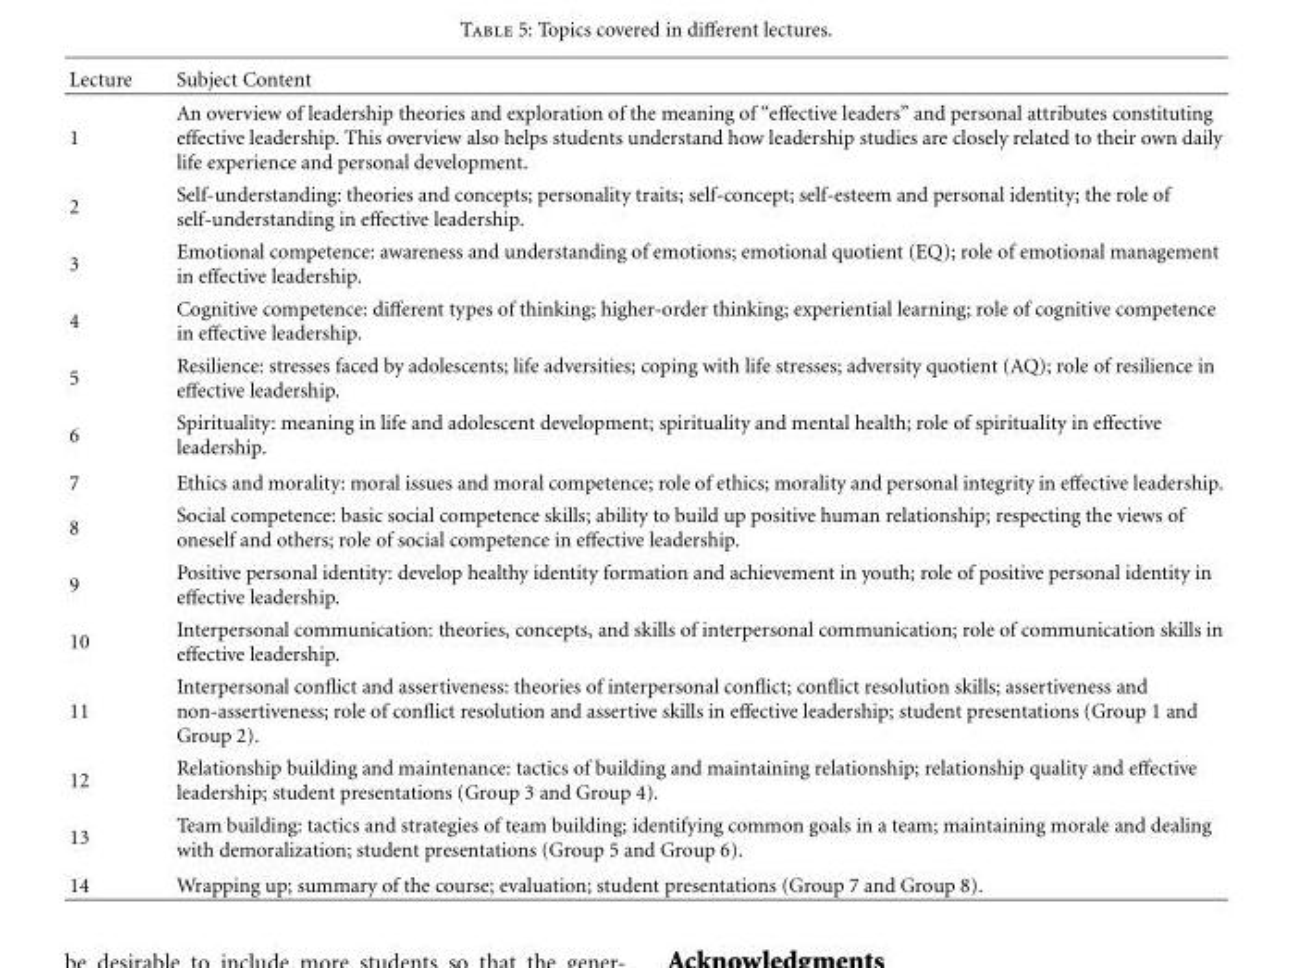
<table><thead><tr><td>Lecture</td><td>Subject Content</td></tr></thead><tbody><tr><td>1</td><td>An overview of leadership theories and exploration of the meaning of “effective leaders” and personal attributes constituting effective leadership. This overview also helps students understand how leadership studies are closely related to their own daily life experience and personal development.</td></tr><tr><td>2</td><td>Self-understanding: theories and concepts; personality traits; self-concept; self-esteem and personal identity; the role of self-understanding in effective leadership.</td></tr><tr><td>3</td><td>Emotional competence: awareness and understanding of emotions; emotional quotient (EQ); role of emotional management in effective leadership.</td></tr><tr><td>4</td><td>Cognitive competence: different types of thinking; higher-order thinking; experiential learning; role of cognitive competence in effective leadership.</td></tr><tr><td>5</td><td>Resilience: stresses faced by adolescents; life adversities; coping with life stresses; adversity quotient (AQ); role of resilience in effective leadership.</td></tr><tr><td>6</td><td>Spirituality: meaning in life and adolescent development; spirituality and mental health; role of spirituality in effective leadership.</td></tr><tr><td>7</td><td>Ethics and morality: moral issues and moral competence; role of ethics; morality and personal integrity in effective leadership.</td></tr><tr><td>8</td><td>Social competence: basic social competence skills; ability to build up positive human relationship; respecting the views of oneself and others; role of social competence in effective leadership.</td></tr><tr><td>9</td><td>Positive personal identity: develop healthy identity formation and achievement in youth; role of positive personal identity in effective leadership.</td></tr><tr><td>10</td><td>Interpersonal communication: theories, concepts, and skills of interpersonal communication; role of communication skills in effective leadership.</td></tr><tr><td>11</td><td>Interpersonal conflict and assertiveness: theories of interpersonal conflict; conflict resolution skills; assertiveness and non-assertiveness; role of conflict resolution and assertive skills in effective leadership; student presentations (Group 1 and Group 2).</td></tr><tr><td>12</td><td>Relationship building and maintenance: tactics of building and maintaining relationship; relationship quality and effective leadership; student presentations (Group 3 and Group 4).</td></tr><tr><td>13</td><td>Team building: tactics and strategies of team building; identifying common goals in a team; maintaining morale and dealing with demoralization; student presentations (Group 5 and Group 6).</td></tr><tr><td>14</td><td>Wrapping up; summary of the course; evaluation; student presentations (Group 7 and Group 8).</td></tr></tbody></table>